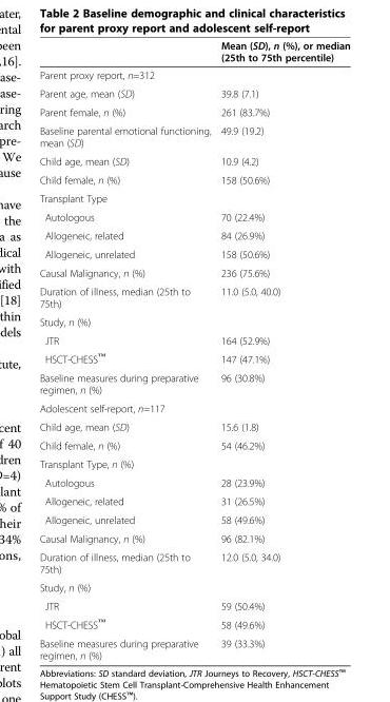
<table><thead><tr><td></td><td>Mean (SD), n (%), or median (25th to 75th percentile)</td></tr></thead><tbody><tr><td colspan="2">Parent proxy report, n=312</td></tr><tr><td>Parent age, mean (SD)</td><td>39.8 (7.1)</td></tr><tr><td>Parent female, n (%)</td><td>261 (83.7%)</td></tr><tr><td>Baseline parental emotional functioning, mean (SD)</td><td>49.9 (19.2)</td></tr><tr><td>Child age, mean (SD)</td><td>10.9 (4.2)</td></tr><tr><td>Child female, n (%)</td><td>158 (50.6%)</td></tr><tr><td colspan="2">Transplant Type</td></tr><tr><td>Autologous</td><td>70 (22.4%)</td></tr><tr><td>Allogeneic, related</td><td>84 (26.9%)</td></tr><tr><td>Allogeneic, unrelated</td><td>158 (50.6%)</td></tr><tr><td>Causal Malignancy, n (%)</td><td>236 (75.6%)</td></tr><tr><td>Duration of illness, median (25th to 75th)</td><td>11.0 (5.0, 40.0)</td></tr><tr><td colspan="2">Study, n (%)</td></tr><tr><td>JTR</td><td>164 (52.9%)</td></tr><tr><td>HSCT-CHESS™</td><td>147 (47.1%)</td></tr><tr><td>Baseline measures during preparative regimen, n (%)</td><td>96 (30.8%)</td></tr><tr><td colspan="2">Adolescent self-report, n=117</td></tr><tr><td>Child age, mean (SD)</td><td>15.6 (1.8)</td></tr><tr><td>Child female, n (%)</td><td>54 (46.2%)</td></tr><tr><td colspan="2">Transplant Type, n (%)</td></tr><tr><td>Autologous</td><td>28 (23.9%)</td></tr><tr><td>Allogeneic, related</td><td>31 (26.5%)</td></tr><tr><td>Allogeneic, unrelated</td><td>58 (49.6%)</td></tr><tr><td>Causal Malignancy, n (%)</td><td>96 (82.1%)</td></tr><tr><td>Duration of illness, median (25th to 75th)</td><td>12.0 (5.0, 34.0)</td></tr><tr><td colspan="2">Study, n (%)</td></tr><tr><td>JTR</td><td>59 (50.4%)</td></tr><tr><td>HSCT-CHESS™</td><td>58 (49.6%)</td></tr><tr><td>Baseline measures during preparative regimen, n (%)</td><td>39 (33.3%)</td></tr></tbody></table>